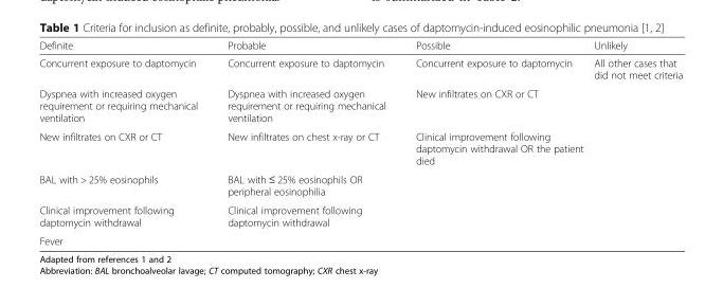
<table><thead><tr><td>Definite</td><td>Probable</td><td>Possible</td><td>Unlikely</td></tr></thead><tbody><tr><td>Concurrent exposure to daptomycin</td><td>Concurrent exposure to daptomycin</td><td>Concurrent exposure to daptomycin</td><td>All other cases that did not meet criteria</td></tr><tr><td>Dyspnea with increased oxygen requirement or requiring mechanical ventilation</td><td>Dyspnea with increased oxygen requirement or requiring mechanical ventilation</td><td>New infiltrates on CXR or CT</td><td></td></tr><tr><td>New infiltrates on CXR or CT</td><td>New infiltrates on chest x-ray or CT</td><td>Clinical improvement following daptomycin withdrawal OR the patient died</td><td></td></tr><tr><td>BAL with &gt; 25% eosinophils</td><td>BAL with ≤ 25% eosinophils OR peripheral eosinophilia</td><td></td><td></td></tr><tr><td>Clinical improvement following daptomycin withdrawal</td><td>Clinical improvement following daptomycin withdrawal</td><td></td><td></td></tr><tr><td>Fever</td><td></td><td></td><td></td></tr></tbody></table>